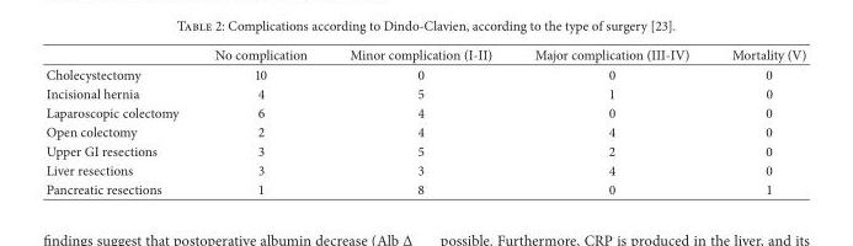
<table><thead><tr><td></td><td>No complication</td><td>Minor complication (I-II)</td><td>Major complication (III-IV)</td><td>Mortality (V)</td></tr></thead><tbody><tr><td>Cholecystectomy</td><td>10</td><td>0</td><td>0</td><td>0</td></tr><tr><td>Incisional hernia</td><td>4</td><td>5</td><td>1</td><td>0</td></tr><tr><td>Laparoscopic colectomy</td><td>6</td><td>4</td><td>0</td><td>0</td></tr><tr><td>Open colectomy</td><td>2</td><td>4</td><td>4</td><td>0</td></tr><tr><td>Upper GI resections</td><td>3</td><td>5</td><td>2</td><td>0</td></tr><tr><td>Liver resections</td><td>3</td><td>3</td><td>4</td><td>0</td></tr><tr><td>Pancreatic resections</td><td>1</td><td>8</td><td>0</td><td>1</td></tr></tbody></table>